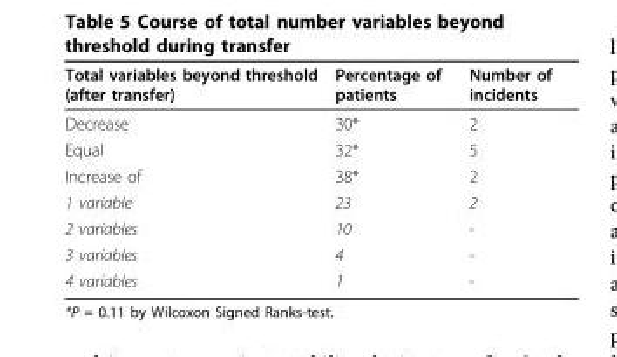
<table><thead><tr><td>Total variables beyond threshold (after transfer)</td><td>Percentage of patients</td><td>Number of incidents</td></tr></thead><tbody><tr><td>Decrease</td><td>30*</td><td>2</td></tr><tr><td>Equal</td><td>32*</td><td>5</td></tr><tr><td>Increase of</td><td>38*</td><td>2</td></tr><tr><td>1 variable</td><td>23</td><td>2</td></tr><tr><td>2 variables</td><td>10</td><td>-</td></tr><tr><td>3 variables</td><td>4</td><td>-</td></tr><tr><td>4 variables</td><td>1</td><td>-</td></tr></tbody></table>